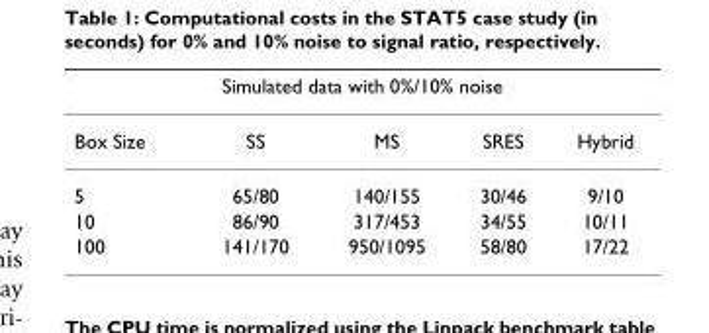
<table><thead><tr><td colspan="5">Simulated data with 0%/10% noise</td></tr><tr><td>Box Size</td><td>SS</td><td>MS</td><td>SRES</td><td>Hybrid</td></tr></thead><tbody><tr><td>5</td><td>65/80</td><td>140/155</td><td>30/46</td><td>9/10</td></tr><tr><td>10</td><td>86/90</td><td>317/453</td><td>34/55</td><td>10/11</td></tr><tr><td>100</td><td>141/170</td><td>950/1095</td><td>58/80</td><td>17/22</td></tr></tbody></table>